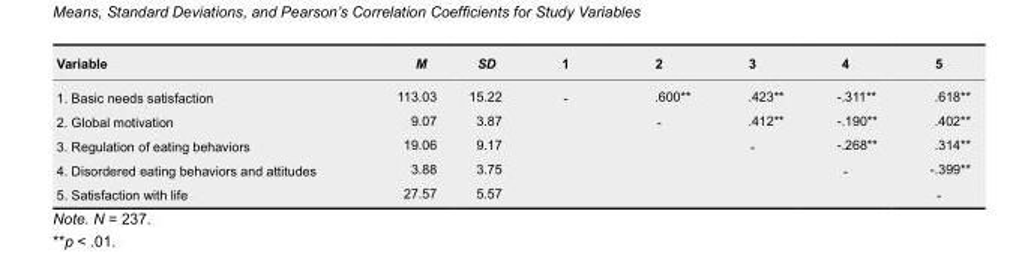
<table><thead><tr><td>Variable</td><td>M</td><td>SD</td><td>1</td><td>2</td><td>3</td><td>4</td><td>5</td></tr></thead><tbody><tr><td>1. Basic needs satisfaction</td><td>113.03</td><td>15.22</td><td>-</td><td>.600**</td><td>.423**</td><td>-.311**</td><td>.618**</td></tr><tr><td>2. Global motivation</td><td>9.07</td><td>3.87</td><td></td><td>-</td><td>.412**</td><td>-.190**</td><td>.402**</td></tr><tr><td>3. Regulation of eating behaviors</td><td>19.06</td><td>9.17</td><td></td><td></td><td>-</td><td>-.268**</td><td>.314**</td></tr><tr><td>4. Disordered eating behaviors and attitudes</td><td>3.88</td><td>3.75</td><td></td><td></td><td></td><td>-</td><td>-.399**</td></tr><tr><td>5. Satisfaction with life</td><td>27.57</td><td>5.57</td><td></td><td></td><td></td><td></td><td>-</td></tr></tbody></table>